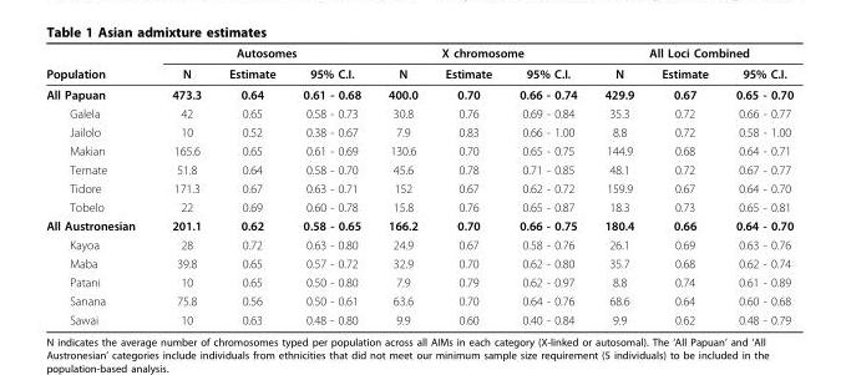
<table><thead><tr><td rowspan="2">Population</td><td colspan="3">Autosomes</td><td colspan="3">X chromosome</td><td colspan="3">All Loci Combined</td></tr><tr><td>N</td><td>Estimate</td><td>95% C.I.</td><td>N</td><td>Estimate</td><td>95% C.I.</td><td>N</td><td>Estimate</td><td>95% C.I.</td></tr></thead><tbody><tr><td>All Papuan</td><td>473.3</td><td>0.64</td><td>0.61 - 0.68</td><td>400.0</td><td>0.70</td><td>0.66 - 0.74</td><td>429.9</td><td>0.67</td><td>0.65 - 0.70</td></tr><tr><td>Galela</td><td>42</td><td>0.65</td><td>0.58 - 0.73</td><td>30.8</td><td>0.76</td><td>0.69 - 0.84</td><td>35.3</td><td>0.72</td><td>0.66 - 0.77</td></tr><tr><td>Jailolo</td><td>10</td><td>0.52</td><td>0.38 - 0.67</td><td>7.9</td><td>0.83</td><td>0.66 - 1.00</td><td>8.8</td><td>0.72</td><td>0.58 - 1.00</td></tr><tr><td>Makian</td><td>165.6</td><td>0.65</td><td>0.61 - 0.69</td><td>130.6</td><td>0.70</td><td>0.65 - 0.75</td><td>144.9</td><td>0.68</td><td>0.64 - 0.71</td></tr><tr><td>Ternate</td><td>51.8</td><td>0.64</td><td>0.58 - 0.70</td><td>45.6</td><td>0.78</td><td>0.71 - 0.85</td><td>48.1</td><td>0.72</td><td>0.67 - 0.77</td></tr><tr><td>Tidore</td><td>171.3</td><td>0.67</td><td>0.63 - 0.71</td><td>152</td><td>0.67</td><td>0.62 - 0.72</td><td>159.9</td><td>0.67</td><td>0.64 - 0.70</td></tr><tr><td>Tobelo</td><td>22</td><td>0.69</td><td>0.60 - 0.78</td><td>15.8</td><td>0.76</td><td>0.65 - 0.87</td><td>18.3</td><td>0.73</td><td>0.65 - 0.81</td></tr><tr><td>All Austronesian</td><td>201.1</td><td>0.62</td><td>0.58 - 0.65</td><td>166.2</td><td>0.70</td><td>0.66 - 0.75</td><td>180.4</td><td>0.66</td><td>0.64 - 0.70</td></tr><tr><td>Kayoa</td><td>28</td><td>0.72</td><td>0.63 - 0.80</td><td>24.9</td><td>0.67</td><td>0.58 - 0.76</td><td>26.1</td><td>0.69</td><td>0.63 - 0.76</td></tr><tr><td>Maba</td><td>39.8</td><td>0.65</td><td>0.57 - 0.72</td><td>32.9</td><td>0.70</td><td>0.62 - 0.80</td><td>35.7</td><td>0.68</td><td>0.62 - 0.74</td></tr><tr><td>Patani</td><td>10</td><td>0.65</td><td>0.50 - 0.80</td><td>7.9</td><td>0.79</td><td>0.62 - 0.97</td><td>8.8</td><td>0.74</td><td>0.61 - 0.89</td></tr><tr><td>Sanana</td><td>75.8</td><td>0.56</td><td>0.50 - 0.61</td><td>63.6</td><td>0.70</td><td>0.64 - 0.76</td><td>68.6</td><td>0.64</td><td>0.60 - 0.68</td></tr><tr><td>Sawai</td><td>10</td><td>0.63</td><td>0.48 - 0.80</td><td>9.9</td><td>0.60</td><td>0.40 - 0.84</td><td>9.9</td><td>0.62</td><td>0.48 - 0.79</td></tr></tbody></table>